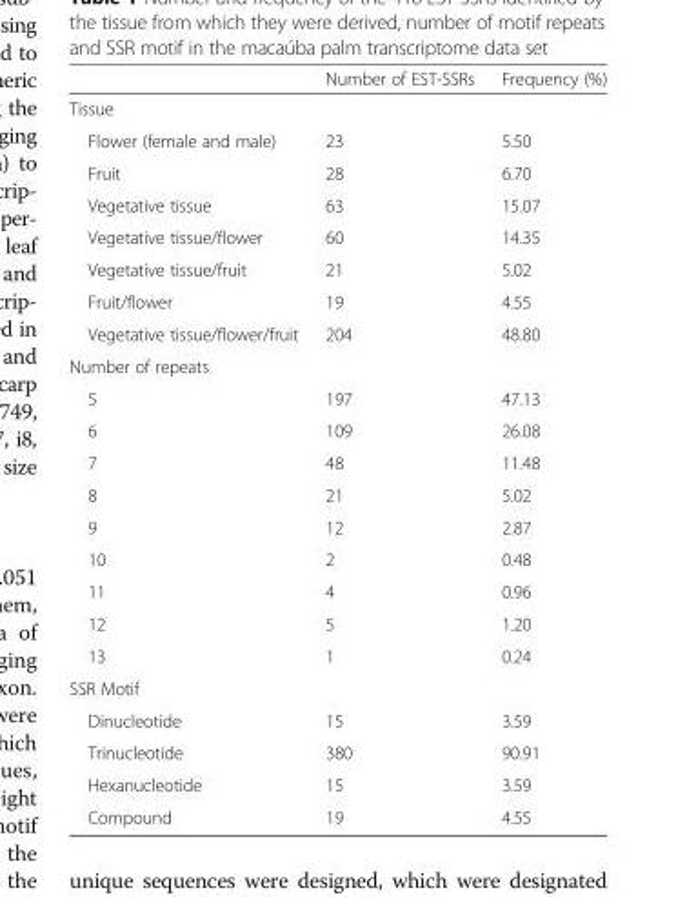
<table><thead><tr><td></td><td>Number of EST-SSRs</td><td>Frequency (%)</td></tr></thead><tbody><tr><td colspan="3">Tissue</td></tr><tr><td>Flower (female and male)</td><td>23</td><td>5.50</td></tr><tr><td>Fruit</td><td>28</td><td>6.70</td></tr><tr><td>Vegetative tissue</td><td>63</td><td>15.07</td></tr><tr><td>Vegetative tissue/flower</td><td>60</td><td>14.35</td></tr><tr><td>Vegetative tissue/fruit</td><td>21</td><td>5.02</td></tr><tr><td>Fruit/flower</td><td>19</td><td>4.55</td></tr><tr><td>Vegetative tissue/flower/fruit</td><td>204</td><td>48.80</td></tr><tr><td colspan="3">Number of repeats</td></tr><tr><td>5</td><td>197</td><td>47.13</td></tr><tr><td>6</td><td>109</td><td>26.08</td></tr><tr><td>7</td><td>48</td><td>11.48</td></tr><tr><td>8</td><td>21</td><td>5.02</td></tr><tr><td>9</td><td>12</td><td>2.87</td></tr><tr><td>10</td><td>2</td><td>0.48</td></tr><tr><td>11</td><td>4</td><td>0.96</td></tr><tr><td>12</td><td>5</td><td>1.20</td></tr><tr><td>13</td><td>1</td><td>0.24</td></tr><tr><td colspan="3">SSR Motif</td></tr><tr><td>Dinucleotide</td><td>15</td><td>3.59</td></tr><tr><td>Trinucleotide</td><td>380</td><td>90.91</td></tr><tr><td>Hexanucleotide</td><td>15</td><td>3.59</td></tr><tr><td>Compound</td><td>19</td><td>4.55</td></tr></tbody></table>